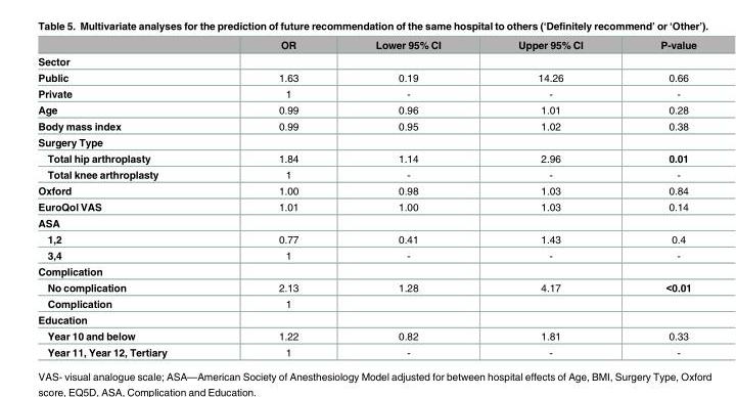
<table><thead><tr><td></td><td>OR</td><td>Lower 95% CI</td><td>Upper 95% CI</td><td>P-value</td></tr></thead><tbody><tr><td colspan="5">Sector</td></tr><tr><td>Public</td><td>1.63</td><td>0.19</td><td>14.26</td><td>0.66</td></tr><tr><td>Private</td><td>1</td><td>-</td><td>-</td><td>-</td></tr><tr><td>Age</td><td>0.99</td><td>0.96</td><td>1.01</td><td>0.28</td></tr><tr><td>Body mass index</td><td>0.99</td><td>0.95</td><td>1.02</td><td>0.38</td></tr><tr><td colspan="5">Surgery Type</td></tr><tr><td>Total hip arthroplasty</td><td>1.84</td><td>1.14</td><td>2.96</td><td>0.01</td></tr><tr><td>Total knee arthroplasty</td><td>1</td><td>-</td><td>-</td><td>-</td></tr><tr><td>Oxford</td><td>1.00</td><td>0.98</td><td>1.03</td><td>0.84</td></tr><tr><td>EuroQol VAS</td><td>1.01</td><td>1.00</td><td>1.03</td><td>0.14</td></tr><tr><td colspan="5">ASA</td></tr><tr><td>1,2</td><td>0.77</td><td>0.41</td><td>1.43</td><td>0.4</td></tr><tr><td>3,4</td><td>1</td><td>-</td><td>-</td><td>-</td></tr><tr><td colspan="5">Complication</td></tr><tr><td>No complication</td><td>2.13</td><td>1.28</td><td>4.17</td><td>&lt;0.01</td></tr><tr><td>Complication</td><td>1</td><td></td><td></td><td></td></tr><tr><td colspan="5">Education</td></tr><tr><td>Year 10 and below</td><td>1.22</td><td>0.82</td><td>1.81</td><td>0.33</td></tr><tr><td>Year 11, Year 12, Tertiary</td><td>1</td><td>-</td><td>-</td><td>-</td></tr></tbody></table>